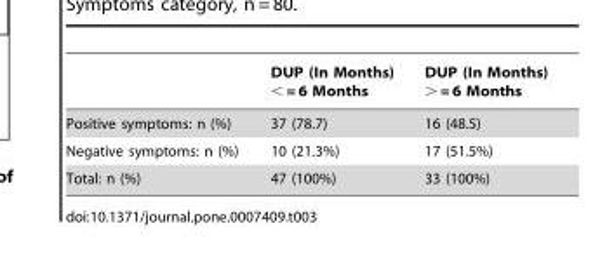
<table><thead><tr><td></td><td>DUP (In Months) &lt; = 6 Months</td><td>DUP (In Months) &gt; = 6 Months</td></tr></thead><tbody><tr><td>Positive symptoms: n (%)</td><td>37 (78.7)</td><td>16 (48.5)</td></tr><tr><td>Negative symptoms: n (%)</td><td>10 (21.3%)</td><td>17 (51.5%)</td></tr><tr><td>Total: n (%)</td><td>47 (100%)</td><td>33 (100%)</td></tr></tbody></table>